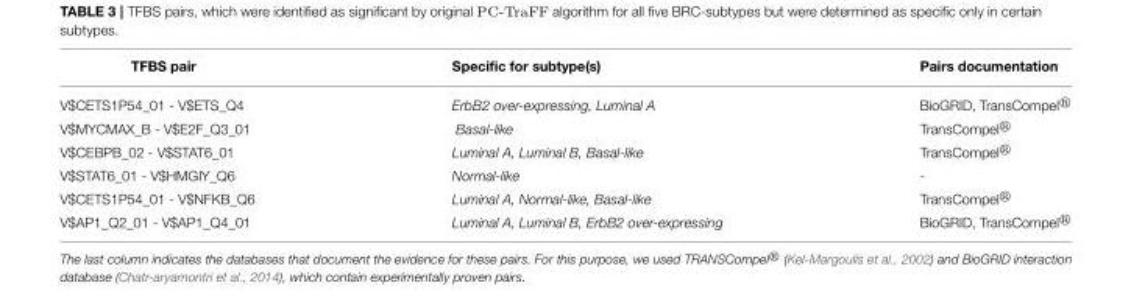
<table><thead><tr><td>TFBS pair</td><td>Specific for subtype(s)</td><td>Pairs documentation</td></tr></thead><tbody><tr><td>V$CETS1P54_01 - V$ETS_Q4</td><td>ErbB2 over-expressing, Luminal A</td><td>BioGRID, TransCompel®</td></tr><tr><td>V$MYCMAX_B - V$E2F_Q3_01</td><td>Basal-like</td><td>TransCompel®</td></tr><tr><td>V$CEBPB_02 - V$STAT6_01</td><td>Luminal A, Luminal B, Basal-like</td><td>TransCompel®</td></tr><tr><td>V$STAT6_01 - V$HMGIY_Q6</td><td>Normal-like</td><td>-</td></tr><tr><td>V$CETS1P54_01 - V$NFKB_Q6</td><td>Luminal A, Normal-like, Basal-like</td><td>TransCompel®</td></tr><tr><td>V$AP1_Q2_01 - V$AP1_Q4_01</td><td>Luminal A, Luminal B, ErbB2 over-expressing</td><td>BioGRID, TransCompel®</td></tr></tbody></table>